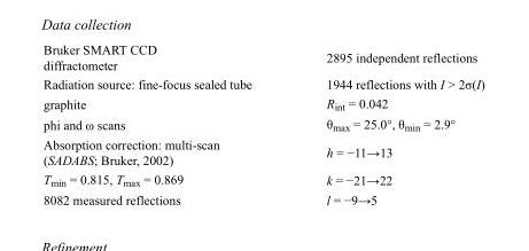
<table><tbody><tr><td>Bruker SMART CCD diffractometer</td><td>2895 independent reflections</td></tr><tr><td>Radiation source: fine-focus sealed tube</td><td>1944 reflections with I &gt; 2σ(I)</td></tr><tr><td>graphite</td><td>R<sub>int</sub> = 0.042</td></tr><tr><td>phi and ω scans</td><td>θ<sub>max</sub> = 25.0°, θ<sub>min</sub> = 2.9°</td></tr><tr><td>Absorption correction: multi-scan (SADABS; Bruker, 2002)</td><td>h = −11→13</td></tr><tr><td>T<sub>min</sub> = 0.815, T<sub>max</sub> = 0.869</td><td>k = −21→22</td></tr><tr><td>8082 measured reflections</td><td>l = −9→5</td></tr></tbody></table>